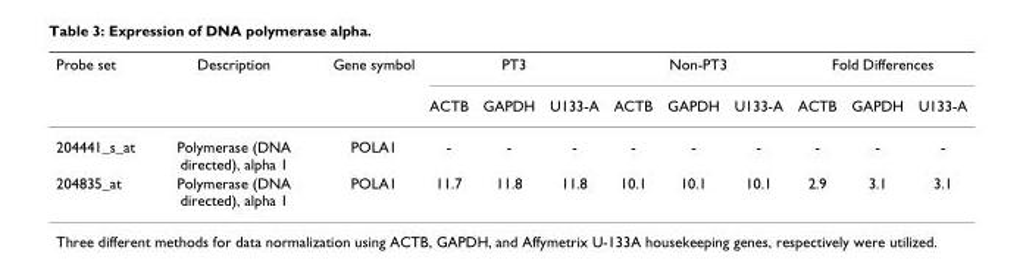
<table><thead><tr><td rowspan="2">Probe set</td><td rowspan="2">Description</td><td rowspan="2">Gene symbol</td><td colspan="3">PT3</td><td colspan="3">Non-PT3</td><td colspan="3">Fold Differences</td></tr><tr><td>ACTB</td><td>GAPDH</td><td>U133-A</td><td>ACTB</td><td>GAPDH</td><td>U133-A</td><td>ACTB</td><td>GAPDH</td><td>U133-A</td></tr></thead><tbody><tr><td>204441_s_at</td><td>Polymerase (DNA directed), alpha 1</td><td>POLA1</td><td>-</td><td>-</td><td>-</td><td>-</td><td>-</td><td>-</td><td>-</td><td>-</td><td>-</td></tr><tr><td>204835_at</td><td>Polymerase (DNA directed), alpha 1</td><td>POLA1</td><td>11.7</td><td>11.8</td><td>11.8</td><td>10.1</td><td>10.1</td><td>10.1</td><td>2.9</td><td>3.1</td><td>3.1</td></tr></tbody></table>